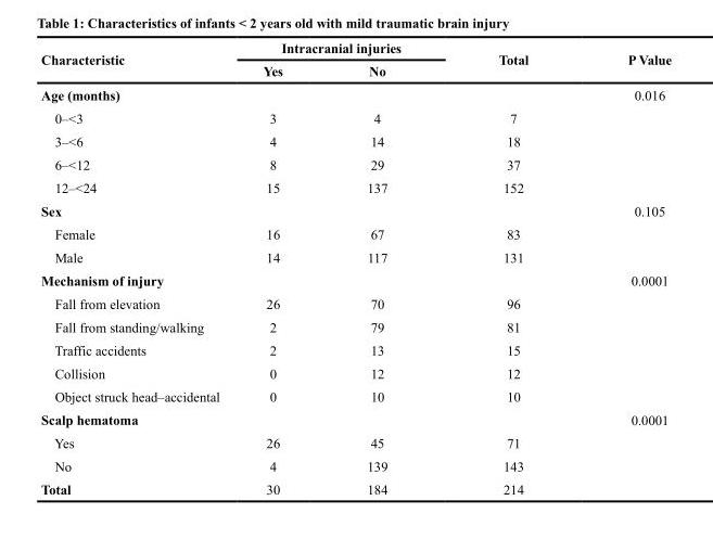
<table><thead><tr><td rowspan="2">Characteristic</td><td colspan="2">Intracranial injuries</td><td rowspan="2">Total</td><td rowspan="2">P Value</td></tr><tr><td>Yes</td><td>No</td></tr></thead><tbody><tr><td>Age (months)</td><td></td><td></td><td></td><td>0.016</td></tr><tr><td>0–&lt;3</td><td>3</td><td>4</td><td>7</td><td></td></tr><tr><td>3–&lt;6</td><td>4</td><td>14</td><td>18</td><td></td></tr><tr><td>6–&lt;12</td><td>8</td><td>29</td><td>37</td><td></td></tr><tr><td>12–&lt;24</td><td>15</td><td>137</td><td>152</td><td></td></tr><tr><td>Sex</td><td></td><td></td><td></td><td>0.105</td></tr><tr><td>Female</td><td>16</td><td>67</td><td>83</td><td></td></tr><tr><td>Male</td><td>14</td><td>117</td><td>131</td><td></td></tr><tr><td>Mechanism of injury</td><td></td><td></td><td></td><td>0.0001</td></tr><tr><td>Fall from elevation</td><td>26</td><td>70</td><td>96</td><td></td></tr><tr><td>Fall from standing/walking</td><td>2</td><td>79</td><td>81</td><td></td></tr><tr><td>Traffic accidents</td><td>2</td><td>13</td><td>15</td><td></td></tr><tr><td>Collision</td><td>0</td><td>12</td><td>12</td><td></td></tr><tr><td>Object struck head–accidental</td><td>0</td><td>10</td><td>10</td><td></td></tr><tr><td>Scalp hematoma</td><td></td><td></td><td></td><td>0.0001</td></tr><tr><td>Yes</td><td>26</td><td>45</td><td>71</td><td></td></tr><tr><td>No</td><td>4</td><td>139</td><td>143</td><td></td></tr><tr><td>Total</td><td>30</td><td>184</td><td>214</td><td></td></tr></tbody></table>